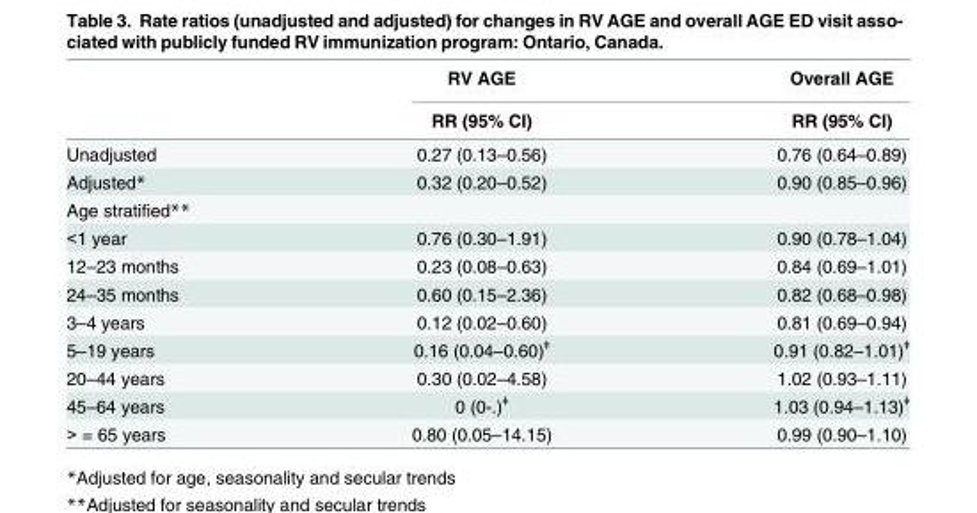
<table><thead><tr><td rowspan="2"></td><td rowspan="2">RV AGE RR (95% CI)</td><td rowspan="2">Overall AGE RR (95% CI)</td></tr><tr></tr></thead><tbody><tr><td>Unadjusted</td><td>0.27 (0.13–0.56)</td><td>0.76 (0.64–0.89)</td></tr><tr><td>Adjusted*</td><td>0.32 (0.20–0.52)</td><td>0.90 (0.85–0.96)</td></tr><tr><td colspan="3">Age stratified**</td></tr><tr><td>&lt;1 year</td><td>0.76 (0.30–1.91)</td><td>0.90 (0.78–1.04)</td></tr><tr><td>12–23 months</td><td>0.23 (0.08–0.63)</td><td>0.84 (0.69–1.01)</td></tr><tr><td>24–35 months</td><td>0.60 (0.15–2.36)</td><td>0.82 (0.68–0.98)</td></tr><tr><td>3–4 years</td><td>0.12 (0.02–0.60)</td><td>0.81 (0.69–0.94)</td></tr><tr><td>5–19 years</td><td>0.16 (0.04–0.60)<sup>ǂ</sup></td><td>0.91 (0.82–1.01)<sup>ǂ</sup></td></tr><tr><td>20–44 years</td><td>0.30 (0.02–4.58)</td><td>1.02 (0.93–1.11)</td></tr><tr><td>45–64 years</td><td>0 (0-.)<sup>ǂ</sup></td><td>1.03 (0.94–1.13)<sup>ǂ</sup></td></tr><tr><td>&gt; = 65 years</td><td>0.80 (0.05–14.15)</td><td>0.99 (0.90–1.10)</td></tr></tbody></table>